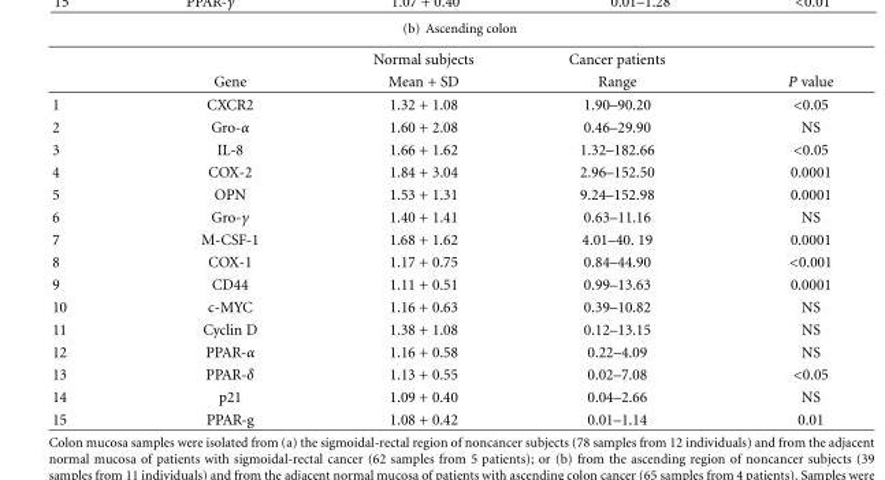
<table><thead><tr><td></td><td></td><td>Normal subjects</td><td>Cancer patients</td><td></td></tr></thead><tbody><tr><td></td><td>Gene</td><td>Mean + SD</td><td>Range</td><td>P value</td></tr><tr><td>1</td><td>CXCR2</td><td>1.32 + 1.08</td><td>1.90–90.20</td><td>&lt;0.05</td></tr><tr><td>2</td><td>Gro-α</td><td>1.60 + 2.08</td><td>0.46–29.90</td><td>NS</td></tr><tr><td>3</td><td>IL-8</td><td>1.66 + 1.62</td><td>1.32–182.66</td><td>&lt;0.05</td></tr><tr><td>4</td><td>COX-2</td><td>1.84 + 3.04</td><td>2.96–152.50</td><td>0.0001</td></tr><tr><td>5</td><td>OPN</td><td>1.53 + 1.31</td><td>9.24–152.98</td><td>0.0001</td></tr><tr><td>6</td><td>Gro-γ</td><td>1.40 + 1.41</td><td>0.63–11.16</td><td>NS</td></tr><tr><td>7</td><td>M-CSF-1</td><td>1.68 + 1.62</td><td>4.01–40. 19</td><td>0.0001</td></tr><tr><td>8</td><td>COX-1</td><td>1.17 + 0.75</td><td>0.84–44.90</td><td>&lt;0.001</td></tr><tr><td>9</td><td>CD44</td><td>1.11 + 0.51</td><td>0.99–13.63</td><td>0.0001</td></tr><tr><td>10</td><td>c-MYC</td><td>1.16 + 0.63</td><td>0.39–10.82</td><td>NS</td></tr><tr><td>11</td><td>Cyclin D</td><td>1.38 + 1.08</td><td>0.12–13.15</td><td>NS</td></tr><tr><td>12</td><td>PPAR-α</td><td>1.16 + 0.58</td><td>0.22–4.09</td><td>NS</td></tr><tr><td>13</td><td>PPAR-δ</td><td>1.13 + 0.55</td><td>0.02–7.08</td><td>&lt;0.05</td></tr><tr><td>14</td><td>p21</td><td>1.09 + 0.40</td><td>0.04–2.66</td><td>NS</td></tr><tr><td>15</td><td>PPAR-g</td><td>1.08 + 0.42</td><td>0.01–1.14</td><td>0.01</td></tr></tbody></table>